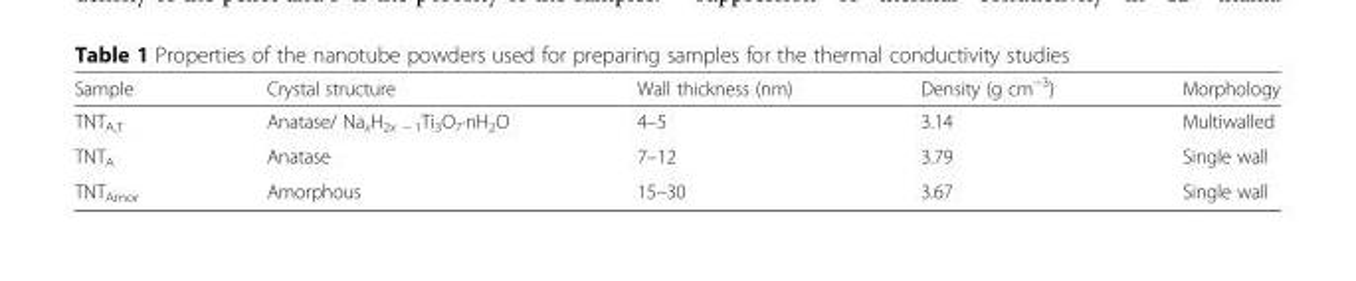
<table><thead><tr><td>Sample</td><td>Crystal structure</td><td>Wall thickness (nm)</td><td>Density (g cm<sup>−3</sup>)</td><td>Morphology</td></tr></thead><tbody><tr><td>TNT<sub>A,T</sub></td><td>Anatase/ Na<sub>x</sub>H<sub>2x − 1</sub>Ti<sub>3</sub>O<sub>7</sub>·nH<sub>2</sub>O</td><td>4–5</td><td>3.14</td><td>Multiwalled</td></tr><tr><td>TNT<sub>A</sub></td><td>Anatase</td><td>7–12</td><td>3.79</td><td>Single wall</td></tr><tr><td>TNT<sub>Amor</sub></td><td>Amorphous</td><td>15–30</td><td>3.67</td><td>Single wall</td></tr></tbody></table>